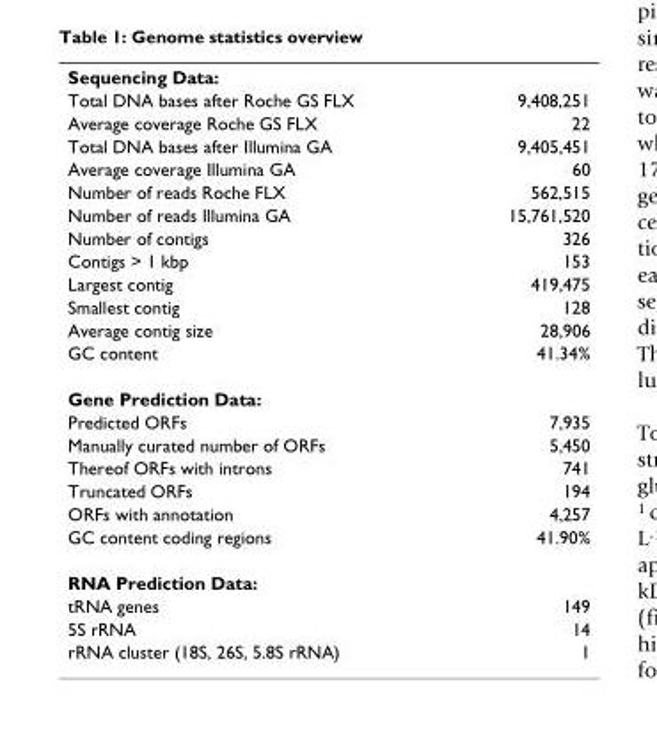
<table><tbody><tr><td colspan="2">Sequencing Data:</td></tr><tr><td>Total DNA bases after Roche GS FLX</td><td>9,408,251</td></tr><tr><td>Average coverage Roche GS FLX</td><td>22</td></tr><tr><td>Total DNA bases after Illumina GA</td><td>9,405,451</td></tr><tr><td>Average coverage Illumina GA</td><td>60</td></tr><tr><td>Number of reads Roche FLX</td><td>562,515</td></tr><tr><td>Number of reads Illumina GA</td><td>15,761,520</td></tr><tr><td>Number of contigs</td><td>326</td></tr><tr><td>Contigs &gt; 1 kbp</td><td>153</td></tr><tr><td>Largest contig</td><td>419,475</td></tr><tr><td>Smallest contig</td><td>128</td></tr><tr><td>Average contig size</td><td>28,906</td></tr><tr><td>GC content</td><td>41.34%</td></tr><tr><td colspan="2">Gene Prediction Data:</td></tr><tr><td>Predicted ORFs</td><td>7,935</td></tr><tr><td>Manually curated number of ORFs</td><td>5,450</td></tr><tr><td>Thereof ORFs with introns</td><td>741</td></tr><tr><td>Truncated ORFs</td><td>194</td></tr><tr><td>ORFs with annotation</td><td>4,257</td></tr><tr><td>GC content coding regions</td><td>41.90%</td></tr><tr><td colspan="2">RNA Prediction Data:</td></tr><tr><td>tRNA genes</td><td>149</td></tr><tr><td>5S rRNA</td><td>14</td></tr><tr><td>rRNA cluster (18S, 26S, 5.8S rRNA)</td><td>1</td></tr></tbody></table>